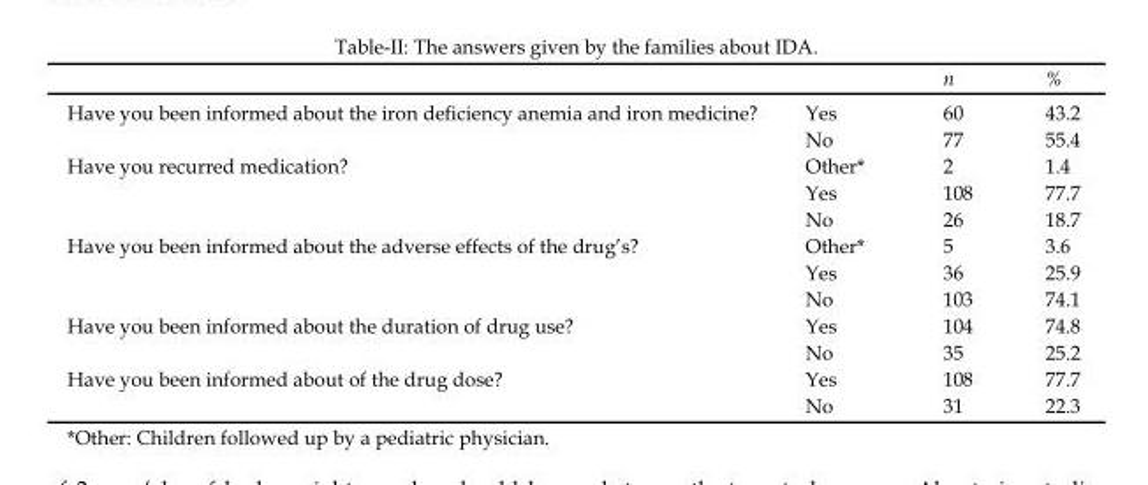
<table><thead><tr><td></td><td></td><td>n</td><td>%</td></tr></thead><tbody><tr><td rowspan="2">Have you been informed about the iron deficiency anemia and iron medicine?</td><td>Yes</td><td>60</td><td>43.2</td></tr><tr><td>No</td><td>77</td><td>55.4</td></tr><tr><td rowspan="3">Have you recurred medication?</td><td>Other*</td><td>2</td><td>1.4</td></tr><tr><td>Yes</td><td>108</td><td>77.7</td></tr><tr><td>No</td><td>26</td><td>18.7</td></tr><tr><td rowspan="3">Have you been informed about the adverse effects of the drug’s?</td><td>Other*</td><td>5</td><td>3.6</td></tr><tr><td>Yes</td><td>36</td><td>25.9</td></tr><tr><td>No</td><td>103</td><td>74.1</td></tr><tr><td rowspan="2">Have you been informed about the duration of drug use?</td><td>Yes</td><td>104</td><td>74.8</td></tr><tr><td>No</td><td>35</td><td>25.2</td></tr><tr><td rowspan="2">Have you been informed about of the drug dose?</td><td>Yes</td><td>108</td><td>77.7</td></tr><tr><td>No</td><td>31</td><td>22.3</td></tr></tbody></table>